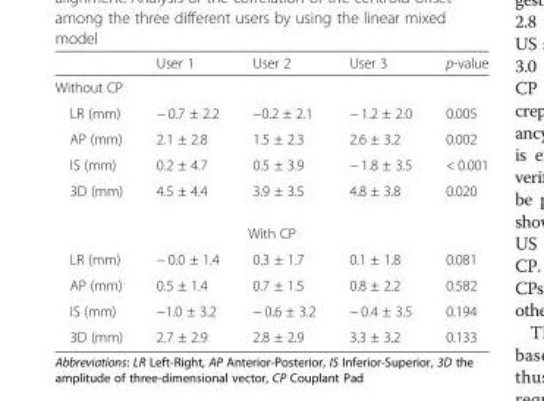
<table><thead><tr><td></td><td>User 1</td><td>User 2</td><td>User 3</td><td>p-value</td></tr></thead><tbody><tr><td colspan="5">Without CP</td></tr><tr><td>LR (mm)</td><td>− 0.7 ± 2.2</td><td>−0.2 ± 2.1</td><td>− 1.2 ± 2.0</td><td>0.005</td></tr><tr><td>AP (mm)</td><td>2.1 ± 2.8</td><td>1.5 ± 2.3</td><td>2.6 ± 3.2</td><td>0.002</td></tr><tr><td>IS (mm)</td><td>0.2 ± 4.7</td><td>0.5 ± 3.9</td><td>− 1.8 ± 3.5</td><td>&lt; 0.001</td></tr><tr><td>3D (mm)</td><td>4.5 ± 4.4</td><td>3.9 ± 3.5</td><td>4.8 ± 3.8</td><td>0.020</td></tr><tr><td colspan="5">With CP</td></tr><tr><td>LR (mm)</td><td>− 0.0 ± 1.4</td><td>0.3 ± 1.7</td><td>0.1 ± 1.8</td><td>0.081</td></tr><tr><td>AP (mm)</td><td>0.5 ± 1.4</td><td>0.7 ± 1.5</td><td>0.8 ± 2.2</td><td>0.582</td></tr><tr><td>IS (mm)</td><td>−1.0 ± 3.2</td><td>− 0.6 ± 3.2</td><td>− 0.4 ± 3.5</td><td>0.194</td></tr><tr><td>3D (mm)</td><td>2.7 ± 2.9</td><td>2.8 ± 2.9</td><td>3.3 ± 3.2</td><td>0.133</td></tr></tbody></table>